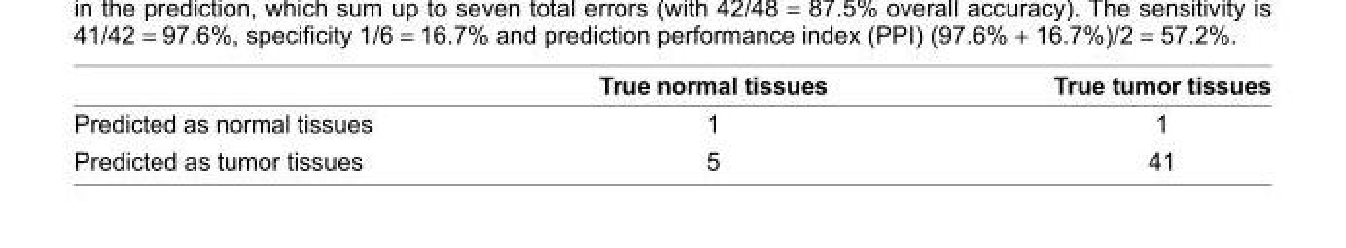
<table><thead><tr><td></td><td>True normal tissues</td><td>True tumor tissues</td></tr></thead><tbody><tr><td>Predicted as normal tissues</td><td>1</td><td>1</td></tr><tr><td>Predicted as tumor tissues</td><td>5</td><td>41</td></tr></tbody></table>